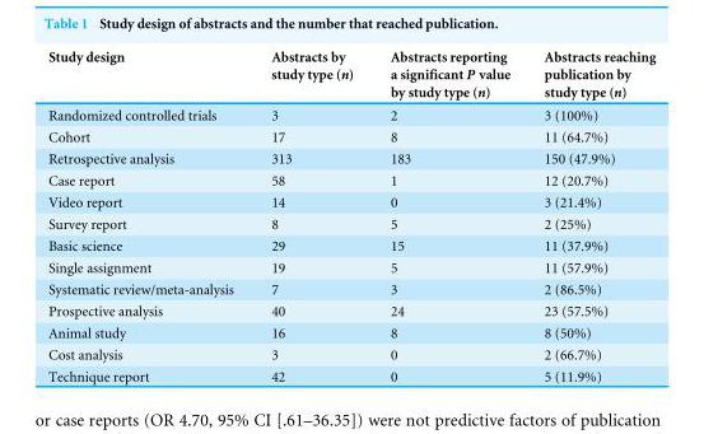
<table><thead><tr><td>Study design</td><td>Abstracts by study type (n)</td><td>Abstracts reporting a significant P value by study type (n)</td><td>Abstracts reaching publication by study type (n)</td></tr></thead><tbody><tr><td>Randomized controlled trials</td><td>3</td><td>2</td><td>3 (100%)</td></tr><tr><td>Cohort</td><td>17</td><td>8</td><td>11 (64.7%)</td></tr><tr><td>Retrospective analysis</td><td>313</td><td>183</td><td>150 (47.9%)</td></tr><tr><td>Case report</td><td>58</td><td>1</td><td>12 (20.7%)</td></tr><tr><td>Video report</td><td>14</td><td>0</td><td>3 (21.4%)</td></tr><tr><td>Survey report</td><td>8</td><td>5</td><td>2 (25%)</td></tr><tr><td>Basic science</td><td>29</td><td>15</td><td>11 (37.9%)</td></tr><tr><td>Single assignment</td><td>19</td><td>5</td><td>11 (57.9%)</td></tr><tr><td>Systematic review/meta-analysis</td><td>7</td><td>3</td><td>2 (86.5%)</td></tr><tr><td>Prospective analysis</td><td>40</td><td>24</td><td>23 (57.5%)</td></tr><tr><td>Animal study</td><td>16</td><td>8</td><td>8 (50%)</td></tr><tr><td>Cost analysis</td><td>3</td><td>0</td><td>2 (66.7%)</td></tr><tr><td>Technique report</td><td>42</td><td>0</td><td>5 (11.9%)</td></tr></tbody></table>